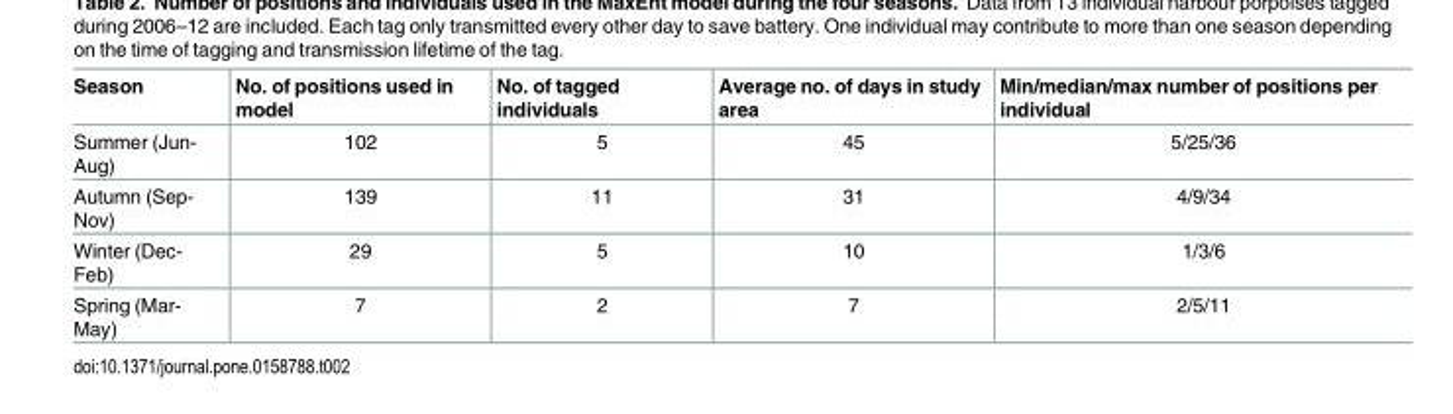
<table><thead><tr><td>Season</td><td>No. of positions used in model</td><td>No. of tagged individuals</td><td>Average no. of days in study area</td><td>Min/median/max number of positions per individual</td></tr></thead><tbody><tr><td>Summer (Jun- Aug)</td><td>102</td><td>5</td><td>45</td><td>5/25/36</td></tr><tr><td>Autumn (Sep- Nov)</td><td>139</td><td>11</td><td>31</td><td>4/9/34</td></tr><tr><td>Winter (Dec- Feb)</td><td>29</td><td>5</td><td>10</td><td>1/3/6</td></tr><tr><td>Spring (Mar- May)</td><td>7</td><td>2</td><td>7</td><td>2/5/11</td></tr></tbody></table>